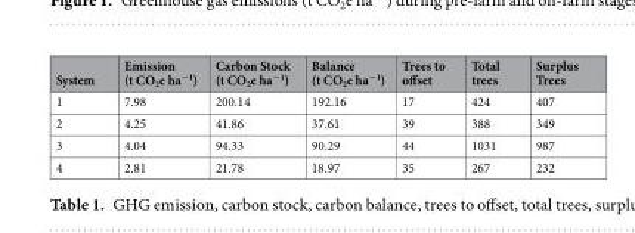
<table><thead><tr><td>System</td><td>Emission (t CO<sub>2</sub>e ha<sup>−1</sup>)</td><td>Carbon Stock (t CO<sub>2</sub>e ha<sup>−1</sup>)</td><td>Balance (t CO<sub>2</sub>e ha<sup>−1</sup>)</td><td>Trees to offset</td><td>Total trees</td><td>Surplus Trees</td></tr></thead><tbody><tr><td>1</td><td>7.98</td><td>200.14</td><td>192.16</td><td>17</td><td>424</td><td>407</td></tr><tr><td>2</td><td>4.25</td><td>41.86</td><td>37.61</td><td>39</td><td>388</td><td>349</td></tr><tr><td>3</td><td>4.04</td><td>94.33</td><td>90.29</td><td>44</td><td>1031</td><td>987</td></tr><tr><td>4</td><td>2.81</td><td>21.78</td><td>18.97</td><td>35</td><td>267</td><td>232</td></tr></tbody></table>